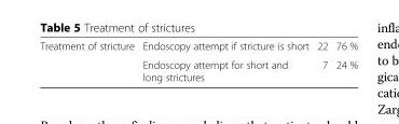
<table><tbody><tr><td rowspan="2">Treatment of stricture</td><td>Endoscopy attempt if stricture is short</td><td>22</td><td>76 %</td></tr><tr><td>Endoscopy attempt for short and long strictures</td><td>7</td><td>24 %</td></tr></tbody></table>